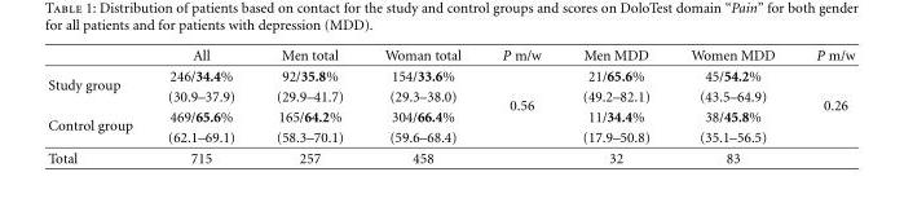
<table><thead><tr><td></td><td>All</td><td>Men total</td><td>Woman total</td><td>P m/w</td><td>Men MDD</td><td>Women MDD</td><td>P m/w</td></tr></thead><tbody><tr><td rowspan="2">Study group</td><td>246/34.4%</td><td>92/35.8%</td><td>154/33.6%</td><td></td><td>21/65.6%</td><td>45/54.2%</td><td rowspan="4">0.26</td></tr><tr><td>(30.9–37.9)</td><td>(29.9–41.7)</td><td>(29.3–38.0)</td><td rowspan="2">0.56</td><td>(49.2–82.1)</td><td>(43.5–64.9)</td></tr><tr><td rowspan="2">Control group</td><td>469/65.6%</td><td>165/64.2%</td><td>304/66.4%</td><td>11/34.4%</td><td>38/45.8%</td></tr><tr><td>(62.1–69.1)</td><td>(58.3–70.1)</td><td>(59.6–68.4)</td><td></td><td>(17.9–50.8)</td><td>(35.1–56.5)</td></tr><tr><td>Total</td><td>715</td><td>257</td><td>458</td><td></td><td>32</td><td>83</td><td></td></tr></tbody></table>